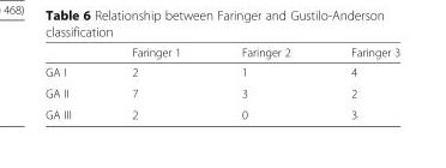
<table><thead><tr><td></td><td>Faringer 1</td><td>Faringer 2</td><td>Faringer 3</td></tr></thead><tbody><tr><td>GA I</td><td>2</td><td>1</td><td>4</td></tr><tr><td>GA II</td><td>7</td><td>3</td><td>2</td></tr><tr><td>GA III</td><td>2</td><td>0</td><td>3</td></tr></tbody></table>